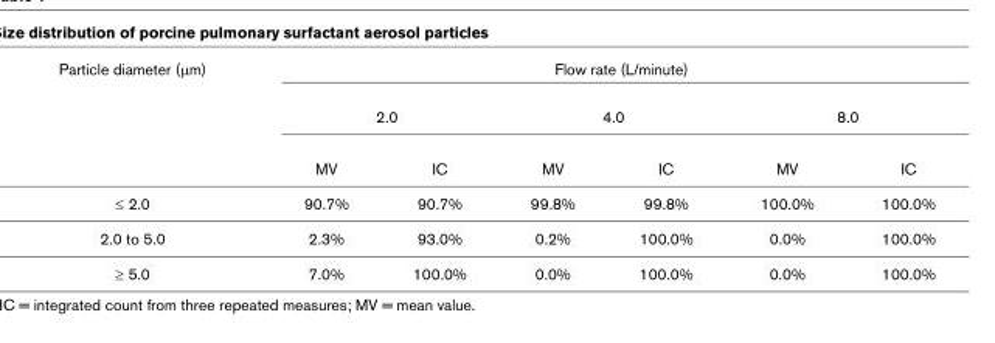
<table><thead><tr><td rowspan="3">Particle diameter (μm)</td><td colspan="6">Flow rate (L/minute)</td></tr><tr><td colspan="2">2.0</td><td colspan="2">4.0</td><td colspan="2">8.0</td></tr><tr><td>MV</td><td>IC</td><td>MV</td><td>IC</td><td>MV</td><td>IC</td></tr></thead><tbody><tr><td>≤ 2.0</td><td>90.7%</td><td>90.7%</td><td>99.8%</td><td>99.8%</td><td>100.0%</td><td>100.0%</td></tr><tr><td>2.0 to 5.0</td><td>2.3%</td><td>93.0%</td><td>0.2%</td><td>100.0%</td><td>0.0%</td><td>100.0%</td></tr><tr><td>≥ 5.0</td><td>7.0%</td><td>100.0%</td><td>0.0%</td><td>100.0%</td><td>0.0%</td><td>100.0%</td></tr></tbody></table>